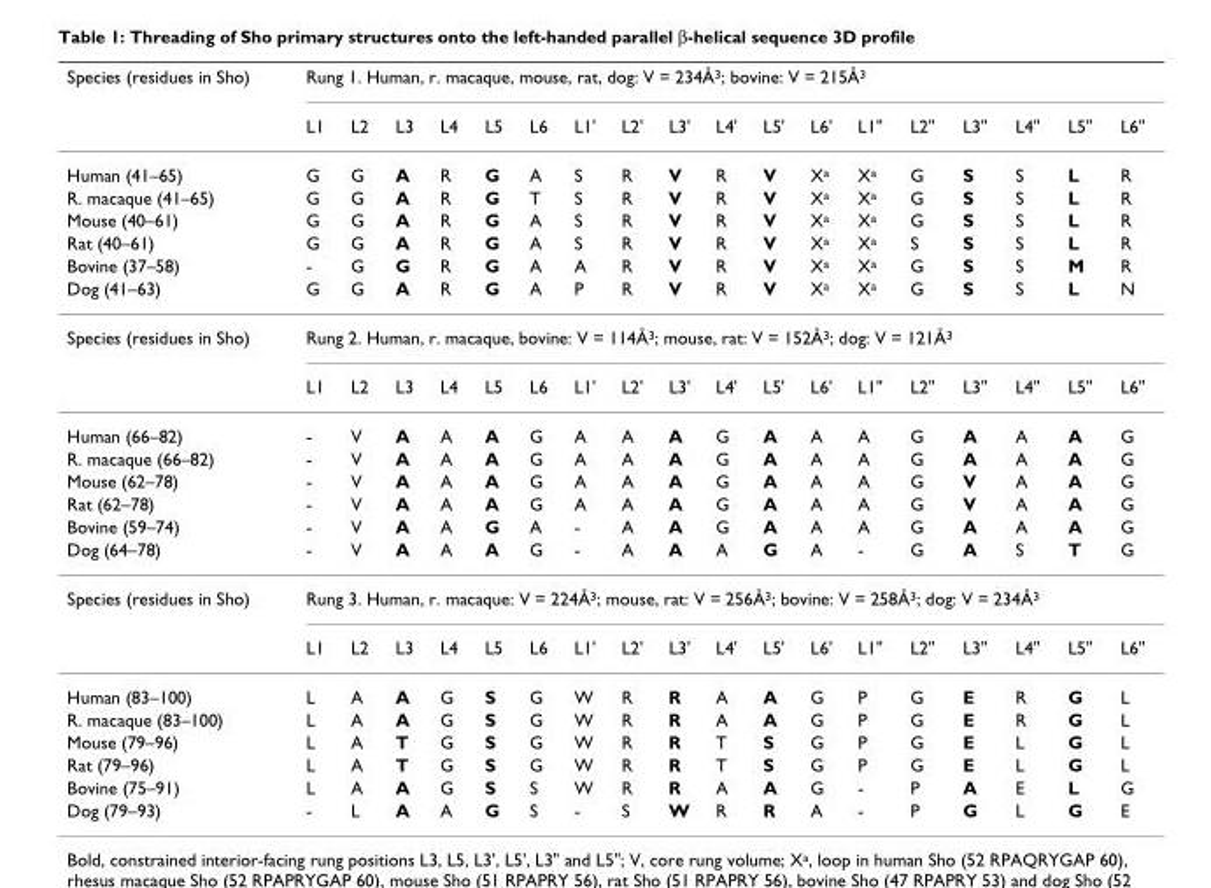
<table><thead><tr><td rowspan="2">Species (residues in Sho)</td><td colspan="18">Rung 1. Human, r. macaque, mouse, rat, dog: V = 234Å3; bovine: V = 215Å3</td></tr><tr><td>L1</td><td>L2</td><td>L3</td><td>L4</td><td>L5</td><td>L6</td><td>L1&#x27;</td><td>L2&#x27;</td><td>L3&#x27;</td><td>L4&#x27;</td><td>L5&#x27;</td><td>L6&#x27;</td><td>L1&quot;</td><td>L2&quot;</td><td>L3&quot;</td><td>L4&quot;</td><td>L5&quot;</td><td>L6&quot;</td></tr></thead><tbody><tr><td>Human (41–65)</td><td>G</td><td>G</td><td>A</td><td>R</td><td>G</td><td>A</td><td>S</td><td>R</td><td>V</td><td>R</td><td>V</td><td>Xa</td><td>Xa</td><td>G</td><td>S</td><td>S</td><td>L</td><td>R</td></tr><tr><td>R. macaque (41–65)</td><td>G</td><td>G</td><td>A</td><td>R</td><td>G</td><td>T</td><td>S</td><td>R</td><td>V</td><td>R</td><td>V</td><td>Xa</td><td>Xa</td><td>G</td><td>S</td><td>S</td><td>L</td><td>R</td></tr><tr><td>Mouse (40–61)</td><td>G</td><td>G</td><td>A</td><td>R</td><td>G</td><td>A</td><td>S</td><td>R</td><td>V</td><td>R</td><td>V</td><td>Xa</td><td>Xa</td><td>G</td><td>S</td><td>S</td><td>L</td><td>R</td></tr><tr><td>Rat (40–61)</td><td>G</td><td>G</td><td>A</td><td>R</td><td>G</td><td>A</td><td>S</td><td>R</td><td>V</td><td>R</td><td>V</td><td>Xa</td><td>Xa</td><td>S</td><td>S</td><td>S</td><td>L</td><td>R</td></tr><tr><td>Bovine (37–58)</td><td>-</td><td>G</td><td>G</td><td>R</td><td>G</td><td>A</td><td>A</td><td>R</td><td>V</td><td>R</td><td>V</td><td>Xa</td><td>Xa</td><td>G</td><td>S</td><td>S</td><td>M</td><td>R</td></tr><tr><td>Dog (41–63)</td><td>G</td><td>G</td><td>A</td><td>R</td><td>G</td><td>A</td><td>P</td><td>R</td><td>V</td><td>R</td><td>V</td><td>Xa</td><td>Xa</td><td>G</td><td>S</td><td>S</td><td>L</td><td>N</td></tr><tr><td rowspan="2">Species (residues in Sho)</td><td colspan="18">Rung 2. Human, r. macaque, bovine: V = 114Å3; mouse, rat: V = 152Å3; dog: V = 121Å3</td></tr><tr><td>L1</td><td>L2</td><td>L3</td><td>L4</td><td>L5</td><td>L6</td><td>L1&#x27;</td><td>L2&#x27;</td><td>L3&#x27;</td><td>L4&#x27;</td><td>L5&#x27;</td><td>L6&#x27;</td><td>L1&quot;</td><td>L2&quot;</td><td>L3&quot;</td><td>L4&quot;</td><td>L5&quot;</td><td>L6&quot;</td></tr><tr><td>Human (66–82)</td><td>-</td><td>V</td><td>A</td><td>A</td><td>A</td><td>G</td><td>A</td><td>A</td><td>A</td><td>G</td><td>A</td><td>A</td><td>A</td><td>G</td><td>A</td><td>A</td><td>A</td><td>G</td></tr><tr><td>R. macaque (66–82)</td><td>-</td><td>V</td><td>A</td><td>A</td><td>A</td><td>G</td><td>A</td><td>A</td><td>A</td><td>G</td><td>A</td><td>A</td><td>A</td><td>G</td><td>A</td><td>A</td><td>A</td><td>G</td></tr><tr><td>Mouse (62–78)</td><td>-</td><td>V</td><td>A</td><td>A</td><td>A</td><td>G</td><td>A</td><td>A</td><td>A</td><td>G</td><td>A</td><td>A</td><td>A</td><td>G</td><td>V</td><td>A</td><td>A</td><td>G</td></tr><tr><td>Rat (62–78)</td><td>-</td><td>V</td><td>A</td><td>A</td><td>A</td><td>G</td><td>A</td><td>A</td><td>A</td><td>G</td><td>A</td><td>A</td><td>A</td><td>G</td><td>V</td><td>A</td><td>A</td><td>G</td></tr><tr><td>Bovine (59–74)</td><td>-</td><td>V</td><td>A</td><td>A</td><td>G</td><td>A</td><td>-</td><td>A</td><td>A</td><td>G</td><td>A</td><td>A</td><td>A</td><td>G</td><td>A</td><td>A</td><td>A</td><td>G</td></tr><tr><td>Dog (64–78)</td><td>-</td><td>V</td><td>A</td><td>A</td><td>A</td><td>G</td><td>-</td><td>A</td><td>A</td><td>A</td><td>G</td><td>A</td><td>-</td><td>G</td><td>A</td><td>S</td><td>T</td><td>G</td></tr><tr><td rowspan="2">Species (residues in Sho)</td><td colspan="18">Rung 3. Human, r. macaque: V = 224Å3; mouse, rat: V = 256Å3; bovine: V = 258Å3; dog: V = 234Å3</td></tr><tr><td>L1</td><td>L2</td><td>L3</td><td>L4</td><td>L5</td><td>L6</td><td>L1&#x27;</td><td>L2&#x27;</td><td>L3&#x27;</td><td>L4&#x27;</td><td>L5&#x27;</td><td>L6&#x27;</td><td>L1&quot;</td><td>L2&quot;</td><td>L3&quot;</td><td>L4&quot;</td><td>L5&quot;</td><td>L6&quot;</td></tr><tr><td>Human (83–100)</td><td>L</td><td>A</td><td>A</td><td>G</td><td>S</td><td>G</td><td>W</td><td>R</td><td>R</td><td>A</td><td>A</td><td>G</td><td>P</td><td>G</td><td>E</td><td>R</td><td>G</td><td>L</td></tr><tr><td>R. macaque (83–100)</td><td>L</td><td>A</td><td>A</td><td>G</td><td>S</td><td>G</td><td>W</td><td>R</td><td>R</td><td>A</td><td>A</td><td>G</td><td>P</td><td>G</td><td>E</td><td>R</td><td>G</td><td>L</td></tr><tr><td>Mouse (79–96)</td><td>L</td><td>A</td><td>T</td><td>G</td><td>S</td><td>G</td><td>W</td><td>R</td><td>R</td><td>T</td><td>S</td><td>G</td><td>P</td><td>G</td><td>E</td><td>L</td><td>G</td><td>L</td></tr><tr><td>Rat (79–96)</td><td>L</td><td>A</td><td>T</td><td>G</td><td>S</td><td>G</td><td>W</td><td>R</td><td>R</td><td>T</td><td>S</td><td>G</td><td>P</td><td>G</td><td>E</td><td>L</td><td>G</td><td>L</td></tr><tr><td>Bovine (75–91)</td><td>L</td><td>A</td><td>A</td><td>G</td><td>S</td><td>S</td><td>W</td><td>R</td><td>R</td><td>A</td><td>A</td><td>G</td><td>-</td><td>P</td><td>A</td><td>E</td><td>L</td><td>G</td></tr><tr><td>Dog (79–93)</td><td>-</td><td>L</td><td>A</td><td>A</td><td>G</td><td>S</td><td>-</td><td>S</td><td>W</td><td>R</td><td>R</td><td>A</td><td>-</td><td>P</td><td>G</td><td>L</td><td>G</td><td>E</td></tr></tbody></table>